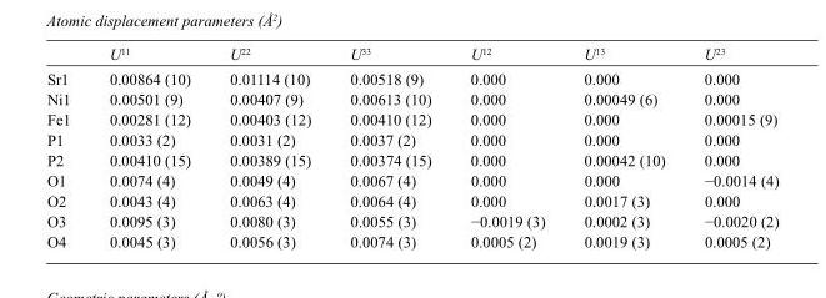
<table><thead><tr><td></td><td>U<sup>11</sup></td><td>U<sup>22</sup></td><td>U<sup>33</sup></td><td>U<sup>12</sup></td><td>U<sup>13</sup></td><td>U<sup>23</sup></td></tr></thead><tbody><tr><td>Sr1</td><td>0.00864 (10)</td><td>0.01114 (10)</td><td>0.00518 (9)</td><td>0.000</td><td>0.000</td><td>0.000</td></tr><tr><td>Ni1</td><td>0.00501 (9)</td><td>0.00407 (9)</td><td>0.00613 (10)</td><td>0.000</td><td>0.00049 (6)</td><td>0.000</td></tr><tr><td>Fe1</td><td>0.00281 (12)</td><td>0.00403 (12)</td><td>0.00410 (12)</td><td>0.000</td><td>0.000</td><td>0.00015 (9)</td></tr><tr><td>P1</td><td>0.0033 (2)</td><td>0.0031 (2)</td><td>0.0037 (2)</td><td>0.000</td><td>0.000</td><td>0.000</td></tr><tr><td>P2</td><td>0.00410 (15)</td><td>0.00389 (15)</td><td>0.00374 (15)</td><td>0.000</td><td>0.00042 (10)</td><td>0.000</td></tr><tr><td>O1</td><td>0.0074 (4)</td><td>0.0049 (4)</td><td>0.0067 (4)</td><td>0.000</td><td>0.000</td><td>−0.0014 (4)</td></tr><tr><td>O2</td><td>0.0043 (4)</td><td>0.0063 (4)</td><td>0.0064 (4)</td><td>0.000</td><td>0.0017 (3)</td><td>0.000</td></tr><tr><td>O3</td><td>0.0095 (3)</td><td>0.0080 (3)</td><td>0.0055 (3)</td><td>−0.0019 (3)</td><td>0.0002 (3)</td><td>−0.0020 (2)</td></tr><tr><td>O4</td><td>0.0045 (3)</td><td>0.0056 (3)</td><td>0.0074 (3)</td><td>0.0005 (2)</td><td>0.0019 (3)</td><td>0.0005 (2)</td></tr></tbody></table>